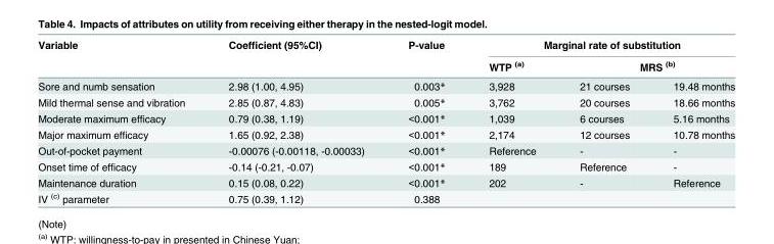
<table><thead><tr><td rowspan="3">Variable Sore and numb sensation</td><td rowspan="3">Coefficient (95%CI) 2.98 (1.00, 4.95)</td><td rowspan="3">P-value 0.003*</td><td colspan="3">Marginal rate of substitution</td></tr><tr><td rowspan="2">WTP <sup>(a)</sup> 3,928</td><td colspan="2">MRS <sup>(b)</sup></td></tr><tr><td>21 courses</td><td>19.48 months</td></tr></thead><tbody><tr><td>Mild thermal sense and vibration</td><td>2.85 (0.87, 4.83)</td><td>0.005*</td><td>3,762</td><td>20 courses</td><td>18.66 months</td></tr><tr><td>Moderate maximum efficacy</td><td>0.79 (0.38, 1.19)</td><td>&lt;0.001*</td><td>1,039</td><td>6 courses</td><td>5.16 months</td></tr><tr><td>Major maximum efficacy</td><td>1.65 (0.92, 2.38)</td><td>&lt;0.001*</td><td>2,174</td><td>12 courses</td><td>10.78 months</td></tr><tr><td>Out-of-pocket payment</td><td>-0.00076 (-0.00118, -0.00033)</td><td>&lt;0.001*</td><td>Reference</td><td>-</td><td>-</td></tr><tr><td>Onset time of efficacy</td><td>-0.14 (-0.21, -0.07)</td><td>&lt;0.001*</td><td>189</td><td>Reference</td><td>-</td></tr><tr><td>Maintenance duration</td><td>0.15 (0.08, 0.22)</td><td>&lt;0.001*</td><td>202</td><td>-</td><td>Reference</td></tr><tr><td>IV <sup>(c)</sup> parameter</td><td>0.75 (0.39, 1.12)</td><td>0.388</td><td></td><td></td><td></td></tr></tbody></table>